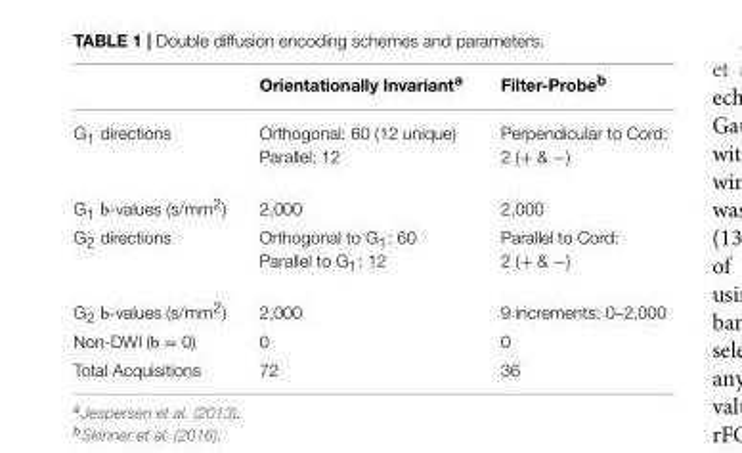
<table><thead><tr><td></td><td>Orientationally Invariant<sup>a</sup></td><td>Filter-Probe<sup>b</sup></td></tr></thead><tbody><tr><td>G<sub>1</sub> directions</td><td>Orthogonal: 60 (12 unique) Parallel: 12</td><td>Perpendicular to Cord: 2 (+ &amp; −)</td></tr><tr><td>G<sub>1</sub> b-values (s/mm<sup>2</sup>)</td><td>2,000</td><td>2,000</td></tr><tr><td>G<sub>2</sub> directions</td><td>Orthogonal to G<sub>1</sub>: 60 Parallel to G<sub>1</sub>: 12</td><td>Parallel to Cord: 2 (+ &amp; −)</td></tr><tr><td>G<sub>2</sub> b-values (s/mm<sup>2</sup>)</td><td>2,000</td><td>9 increments: 0–2,000</td></tr><tr><td>Non-DWI (b = 0)</td><td>0</td><td>0</td></tr><tr><td>Total Acquisitions</td><td>72</td><td>36</td></tr></tbody></table>